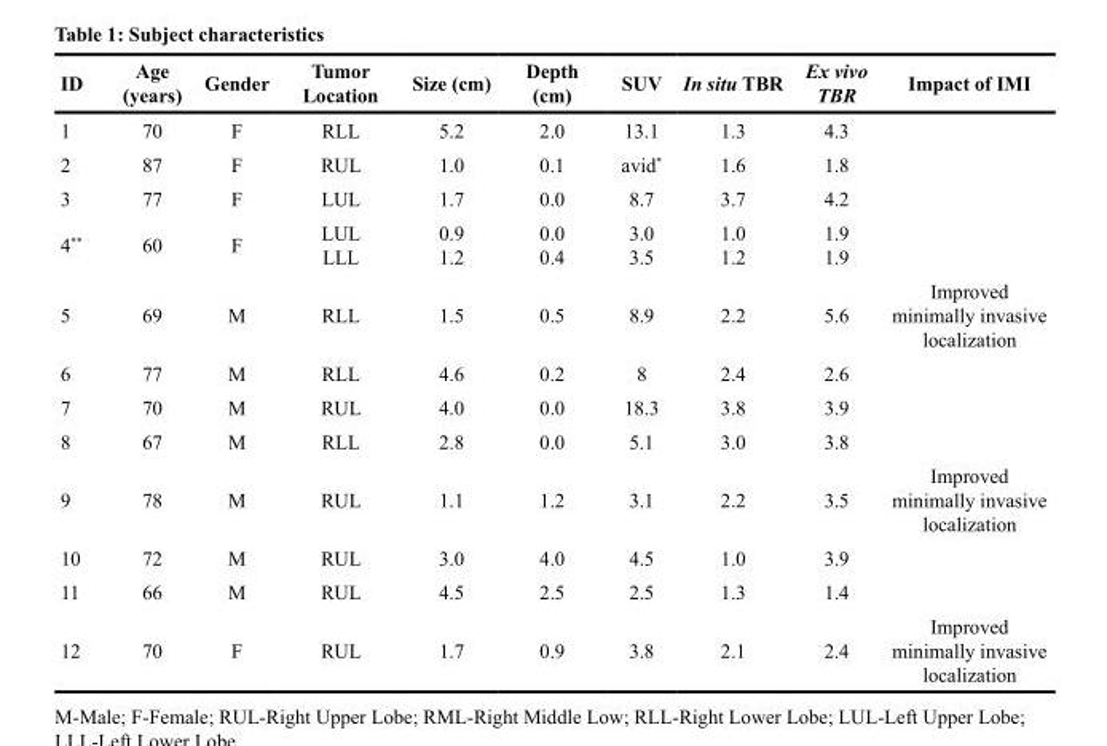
<table><thead><tr><td>ID</td><td>Age (years)</td><td>Gender</td><td>Tumor Location</td><td>Size (cm)</td><td>Depth (cm)</td><td>SUV</td><td>In situ TBR</td><td>Ex vivo TBR</td><td>Impact of IMI</td></tr></thead><tbody><tr><td>1</td><td>70</td><td>F</td><td>RLL</td><td>5.2</td><td>2.0</td><td>13.1</td><td>1.3</td><td>4.3</td><td></td></tr><tr><td>2</td><td>87</td><td>F</td><td>RUL</td><td>1.0</td><td>0.1</td><td>avid*</td><td>1.6</td><td>1.8</td><td></td></tr><tr><td>3</td><td>77</td><td>F</td><td>LUL</td><td>1.7</td><td>0.0</td><td>8.7</td><td>3.7</td><td>4.2</td><td></td></tr><tr><td>4**</td><td>60</td><td>F</td><td>LUL LLL</td><td>0.9 1.2</td><td>0.0 0.4</td><td>3.0 3.5</td><td>1.0 1.2</td><td>1.9 1.9</td><td></td></tr><tr><td>5</td><td>69</td><td>M</td><td>RLL</td><td>1.5</td><td>0.5</td><td>8.9</td><td>2.2</td><td>5.6</td><td>Improved minimally invasive localization</td></tr><tr><td>6</td><td>77</td><td>M</td><td>RLL</td><td>4.6</td><td>0.2</td><td>8</td><td>2.4</td><td>2.6</td><td></td></tr><tr><td>7</td><td>70</td><td>M</td><td>RUL</td><td>4.0</td><td>0.0</td><td>18.3</td><td>3.8</td><td>3.9</td><td></td></tr><tr><td>8</td><td>67</td><td>M</td><td>RLL</td><td>2.8</td><td>0.0</td><td>5.1</td><td>3.0</td><td>3.8</td><td></td></tr><tr><td>9</td><td>78</td><td>M</td><td>RUL</td><td>1.1</td><td>1.2</td><td>3.1</td><td>2.2</td><td>3.5</td><td>Improved minimally invasive localization</td></tr><tr><td>10</td><td>72</td><td>M</td><td>RUL</td><td>3.0</td><td>4.0</td><td>4.5</td><td>1.0</td><td>3.9</td><td></td></tr><tr><td>11</td><td>66</td><td>M</td><td>RUL</td><td>4.5</td><td>2.5</td><td>2.5</td><td>1.3</td><td>1.4</td><td></td></tr><tr><td>12</td><td>70</td><td>F</td><td>RUL</td><td>1.7</td><td>0.9</td><td>3.8</td><td>2.1</td><td>2.4</td><td>Improved minimally invasive localization</td></tr></tbody></table>